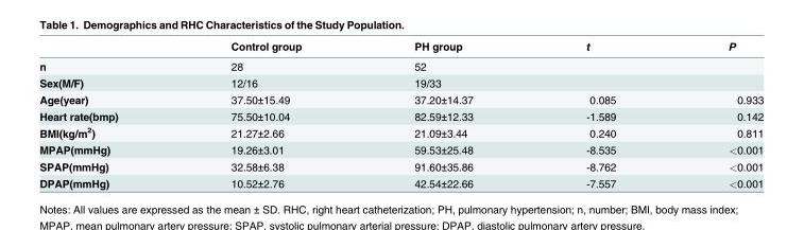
<table><thead><tr><td></td><td>Control group</td><td>PH group</td><td>t</td><td>P</td></tr></thead><tbody><tr><td>n</td><td>28</td><td>52</td><td></td><td></td></tr><tr><td>Sex(M/F)</td><td>12/16</td><td>19/33</td><td></td><td></td></tr><tr><td>Age(year)</td><td>37.50±15.49</td><td>37.20±14.37</td><td>0.085</td><td>0.933</td></tr><tr><td>Heart rate(bmp)</td><td>75.50±10.04</td><td>82.59±12.33</td><td>-1.589</td><td>0.142</td></tr><tr><td>BMI(kg/m<sup>2</sup>)</td><td>21.27±2.66</td><td>21.09±3.44</td><td>0.240</td><td>0.811</td></tr><tr><td>MPAP(mmHg)</td><td>19.26±3.01</td><td>59.53±25.48</td><td>-8.535</td><td>&lt;0.001</td></tr><tr><td>SPAP(mmHg)</td><td>32.58±6.38</td><td>91.60±35.86</td><td>-8.762</td><td>&lt;0.001</td></tr><tr><td>DPAP(mmHg)</td><td>10.52±2.76</td><td>42.54±22.66</td><td>-7.557</td><td>&lt;0.001</td></tr></tbody></table>